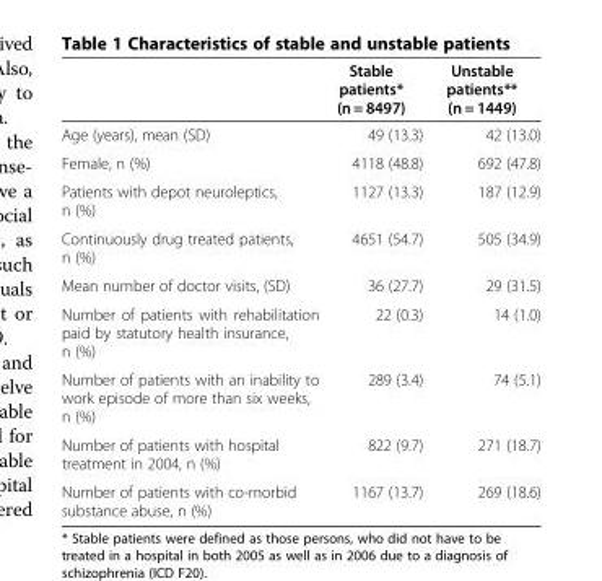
<table><thead><tr><td></td><td>Stable patients* (n = 8497)</td><td>Unstable patients** (n = 1449)</td></tr></thead><tbody><tr><td>Age (years), mean (SD)</td><td>49 (13.3)</td><td>42 (13.0)</td></tr><tr><td>Female, n (%)</td><td>4118 (48.8)</td><td>692 (47.8)</td></tr><tr><td>Patients with depot neuroleptics, n (%)</td><td>1127 (13.3)</td><td>187 (12.9)</td></tr><tr><td>Continuously drug treated patients, n (%)</td><td>4651 (54.7)</td><td>505 (34.9)</td></tr><tr><td>Mean number of doctor visits, (SD)</td><td>36 (27.7)</td><td>29 (31.5)</td></tr><tr><td>Number of patients with rehabilitation paid by statutory health insurance, n (%)</td><td>22 (0.3)</td><td>14 (1.0)</td></tr><tr><td>Number of patients with an inability to work episode of more than six weeks, n (%)</td><td>289 (3.4)</td><td>74 (5.1)</td></tr><tr><td>Number of patients with hospital treatment in 2004, n (%)</td><td>822 (9.7)</td><td>271 (18.7)</td></tr><tr><td>Number of patients with co-morbid substance abuse, n (%)</td><td>1167 (13.7)</td><td>269 (18.6)</td></tr></tbody></table>